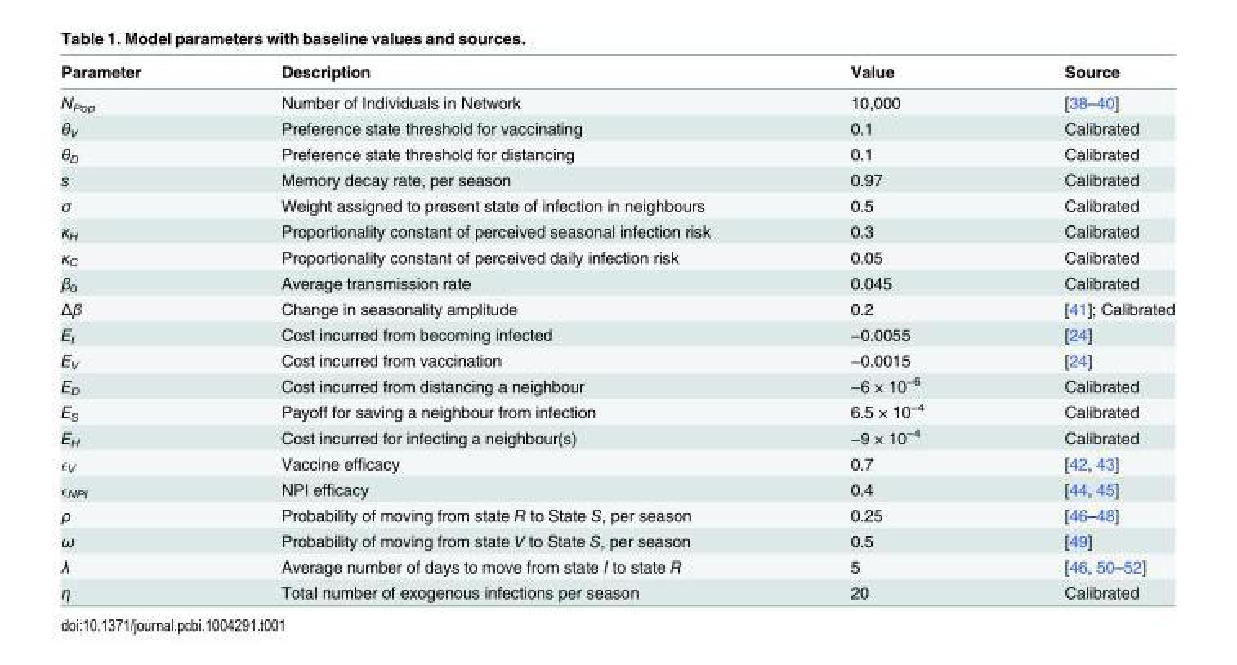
<table><thead><tr><td>Parameter</td><td>Description</td><td>Value</td><td>Source</td></tr></thead><tbody><tr><td>N<sub>Pop</sub></td><td>Number of Individuals in Network</td><td>10,000</td><td>[38–40]</td></tr><tr><td>θ<sub>V</sub></td><td>Preference state threshold for vaccinating</td><td>0.1</td><td>Calibrated</td></tr><tr><td>θ<sub>D</sub></td><td>Preference state threshold for distancing</td><td>0.1</td><td>Calibrated</td></tr><tr><td>s</td><td>Memory decay rate, per season</td><td>0.97</td><td>Calibrated</td></tr><tr><td>σ</td><td>Weight assigned to present state of infection in neighbours</td><td>0.5</td><td>Calibrated</td></tr><tr><td>κ<sub>H</sub></td><td>Proportionality constant of perceived seasonal infection risk</td><td>0.3</td><td>Calibrated</td></tr><tr><td>κ<sub>C</sub></td><td>Proportionality constant of perceived daily infection risk</td><td>0.05</td><td>Calibrated</td></tr><tr><td>β<sub>0</sub></td><td>Average transmission rate</td><td>0.045</td><td>Calibrated</td></tr><tr><td>Δβ</td><td>Change in seasonality amplitude</td><td>0.2</td><td>[41]; Calibrated</td></tr><tr><td>E<sub>I</sub></td><td>Cost incurred from becoming infected</td><td>−0.0055</td><td>[24]</td></tr><tr><td>E<sub>V</sub></td><td>Cost incurred from vaccination</td><td>−0.0015</td><td>[24]</td></tr><tr><td>E<sub>D</sub></td><td>Cost incurred from distancing a neighbour</td><td>−6 × 10<sup>−6</sup></td><td>Calibrated</td></tr><tr><td>E<sub>S</sub></td><td>Payoff for saving a neighbour from infection</td><td>6.5 × 10<sup>−4</sup></td><td>Calibrated</td></tr><tr><td>E<sub>H</sub></td><td>Cost incurred for infecting a neighbour(s)</td><td>−9 × 10<sup>−4</sup></td><td>Calibrated</td></tr><tr><td>ϵ<sub>V</sub></td><td>Vaccine efficacy</td><td>0.7</td><td>[42, 43]</td></tr><tr><td>ϵ<sub>NPI</sub></td><td>NPI efficacy</td><td>0.4</td><td>[44, 45]</td></tr><tr><td>ρ</td><td>Probability of moving from state R to State S, per season</td><td>0.25</td><td>[46–48]</td></tr><tr><td>ω</td><td>Probability of moving from state V to State S, per season</td><td>0.5</td><td>[49]</td></tr><tr><td>λ</td><td>Average number of days to move from state I to state R</td><td>5</td><td>[46, 50–52]</td></tr><tr><td>η</td><td>Total number of exogenous infections per season</td><td>20</td><td>Calibrated</td></tr></tbody></table>